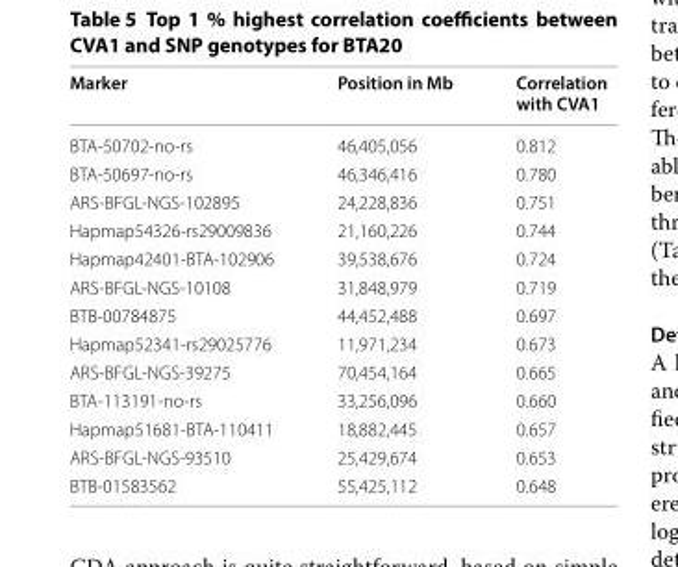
<table><thead><tr><td>Marker</td><td>Position in Mb</td><td>Correlation with CVA1</td></tr></thead><tbody><tr><td>BTA-50702-no-rs</td><td>46,405,056</td><td>0.812</td></tr><tr><td>BTA-50697-no-rs</td><td>46,346,416</td><td>0.780</td></tr><tr><td>ARS-BFGL-NGS-102895</td><td>24,228,836</td><td>0.751</td></tr><tr><td>Hapmap54326-rs29009836</td><td>21,160,226</td><td>0.744</td></tr><tr><td>Hapmap42401-BTA-102906</td><td>39,538,676</td><td>0.724</td></tr><tr><td>ARS-BFGL-NGS-10108</td><td>31,848,979</td><td>0.719</td></tr><tr><td>BTB-00784875</td><td>44,452,488</td><td>0.697</td></tr><tr><td>Hapmap52341-rs29025776</td><td>11,971,234</td><td>0.673</td></tr><tr><td>ARS-BFGL-NGS-39275</td><td>70,454,164</td><td>0.665</td></tr><tr><td>BTA-113191-no-rs</td><td>33,256,096</td><td>0.660</td></tr><tr><td>Hapmap51681-BTA-110411</td><td>18,882,445</td><td>0.657</td></tr><tr><td>ARS-BFGL-NGS-93510</td><td>25,429,674</td><td>0.653</td></tr><tr><td>BTB-01583562</td><td>55,425,112</td><td>0.648</td></tr></tbody></table>